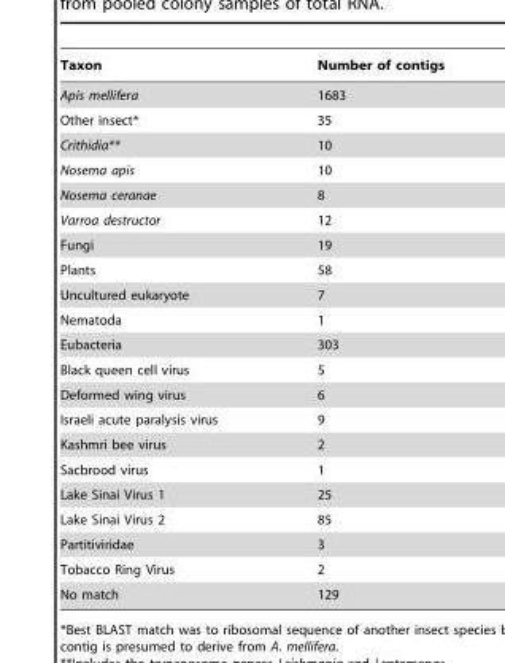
<table><thead><tr><td>Taxon</td><td>Number of contigs</td></tr></thead><tbody><tr><td>Apis mellifera</td><td>1683</td></tr><tr><td>Other insect*</td><td>35</td></tr><tr><td>Crithidia**</td><td>10</td></tr><tr><td>Nosema apis</td><td>10</td></tr><tr><td>Nosema ceranae</td><td>8</td></tr><tr><td>Varroa destructor</td><td>12</td></tr><tr><td>Fungi</td><td>19</td></tr><tr><td>Plants</td><td>58</td></tr><tr><td>Uncultured eukaryote</td><td>7</td></tr><tr><td>Nematoda</td><td>1</td></tr><tr><td>Eubacteria</td><td>303</td></tr><tr><td>Black queen cell virus</td><td>5</td></tr><tr><td>Deformed wing virus</td><td>6</td></tr><tr><td>Israeli acute paralysis virus</td><td>9</td></tr><tr><td>Kashmri bee virus</td><td>2</td></tr><tr><td>Sacbrood virus</td><td>1</td></tr><tr><td>Lake Sinai Virus 1</td><td>25</td></tr><tr><td>Lake Sinai Virus 2</td><td>85</td></tr><tr><td>Partitiviridae</td><td>3</td></tr><tr><td>Tobacco Ring Virus</td><td>2</td></tr><tr><td>No match</td><td>129</td></tr></tbody></table>